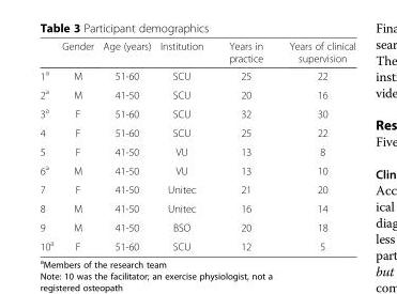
<table><thead><tr><td></td><td>Gender</td><td>Age (years)</td><td>Institution</td><td>Years in practice</td><td>Years of clinical supervision</td></tr></thead><tbody><tr><td>1<sup>a</sup></td><td>M</td><td>51-60</td><td>SCU</td><td>25</td><td>22</td></tr><tr><td>2<sup>a</sup></td><td>M</td><td>41-50</td><td>SCU</td><td>20</td><td>16</td></tr><tr><td>3<sup>a</sup></td><td>F</td><td>51-60</td><td>SCU</td><td>32</td><td>30</td></tr><tr><td>4</td><td>F</td><td>51-60</td><td>SCU</td><td>25</td><td>22</td></tr><tr><td>5</td><td>F</td><td>41-50</td><td>VU</td><td>13</td><td>8</td></tr><tr><td>6<sup>a</sup></td><td>M</td><td>41-50</td><td>VU</td><td>13</td><td>10</td></tr><tr><td>7</td><td>F</td><td>41-50</td><td>Unitec</td><td>21</td><td>20</td></tr><tr><td>8</td><td>M</td><td>41-50</td><td>Unitec</td><td>16</td><td>14</td></tr><tr><td>9</td><td>M</td><td>41-50</td><td>BSO</td><td>20</td><td>18</td></tr><tr><td>10<sup>a</sup></td><td>F</td><td>51-60</td><td>SCU</td><td>12</td><td>5</td></tr></tbody></table>